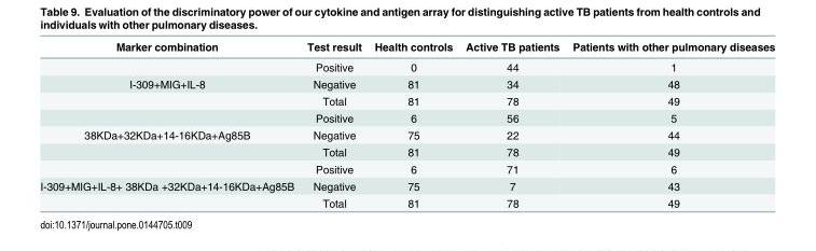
<table><thead><tr><td>Marker combination</td><td>Test result</td><td>Health controls</td><td>Active TB patients</td><td>Patients with other pulmonary diseases</td></tr></thead><tbody><tr><td></td><td>Positive</td><td>0</td><td>44</td><td>1</td></tr><tr><td rowspan="3">I-309+MIG+IL-8</td><td>Negative</td><td>81</td><td>34</td><td>48</td></tr><tr><td>Total</td><td>81</td><td>78</td><td>49</td></tr><tr><td>Positive</td><td>6</td><td>56</td><td>5</td></tr><tr><td rowspan="3">38KDa+32KDa+14-16KDa+Ag85B</td><td>Negative</td><td>75</td><td>22</td><td>44</td></tr><tr><td>Total</td><td>81</td><td>78</td><td>49</td></tr><tr><td>Positive</td><td>6</td><td>71</td><td>6</td></tr><tr><td rowspan="2">I-309+MIG+IL-8+ 38KDa +32KDa+14-16KDa+Ag85B</td><td>Negative</td><td>75</td><td>7</td><td>43</td></tr><tr><td>Total</td><td>81</td><td>78</td><td>49</td></tr></tbody></table>